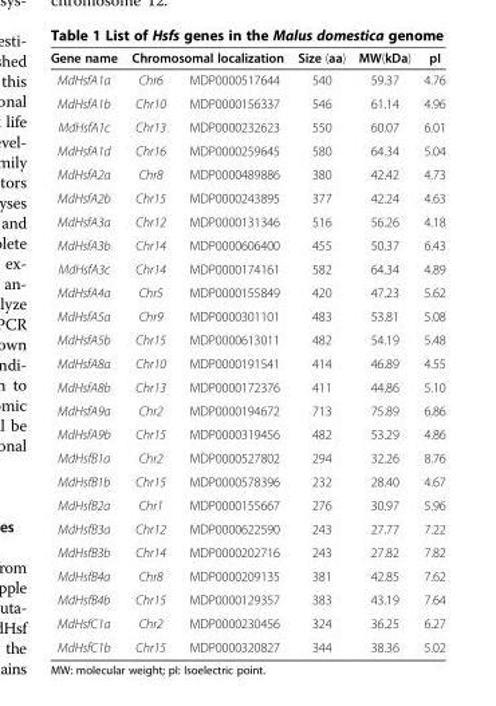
<table><thead><tr><td rowspan="2">Gene name MdHsfA1a</td><td colspan="2">Chromosomal localization</td><td rowspan="2">Size (aa) 540</td><td rowspan="2">MW(kDa) 59.37</td><td rowspan="2">pI 4.76</td></tr><tr><td>Chr6</td><td>MDP0000517644</td></tr></thead><tbody><tr><td>MdHsfA1b</td><td>Chr10</td><td>MDP0000156337</td><td>546</td><td>61.14</td><td>4.96</td></tr><tr><td>MdHsfA1c</td><td>Chr13</td><td>MDP0000232623</td><td>550</td><td>60.07</td><td>6.01</td></tr><tr><td>MdHsfA1d</td><td>Chr16</td><td>MDP0000259645</td><td>580</td><td>64.34</td><td>5.04</td></tr><tr><td>MdHsfA2a</td><td>Chr8</td><td>MDP0000489886</td><td>380</td><td>42.42</td><td>4.73</td></tr><tr><td>MdHsfA2b</td><td>Chr15</td><td>MDP0000243895</td><td>377</td><td>42.24</td><td>4.63</td></tr><tr><td>MdHsfA3a</td><td>Chr12</td><td>MDP0000131346</td><td>516</td><td>56.26</td><td>4.18</td></tr><tr><td>MdHsfA3b</td><td>Chr14</td><td>MDP0000606400</td><td>455</td><td>50.37</td><td>6.43</td></tr><tr><td>MdHsfA3c</td><td>Chr14</td><td>MDP0000174161</td><td>582</td><td>64.34</td><td>4.89</td></tr><tr><td>MdHsfA4a</td><td>Chr5</td><td>MDP0000155849</td><td>420</td><td>47.23</td><td>5.62</td></tr><tr><td>MdHsfA5a</td><td>Chr9</td><td>MDP0000301101</td><td>483</td><td>53.81</td><td>5.08</td></tr><tr><td>MdHsfA5b</td><td>Chr15</td><td>MDP0000613011</td><td>482</td><td>54.19</td><td>5.48</td></tr><tr><td>MdHsfA8a</td><td>Chr10</td><td>MDP0000191541</td><td>414</td><td>46.89</td><td>4.55</td></tr><tr><td>MdHsfA8b</td><td>Chr13</td><td>MDP0000172376</td><td>411</td><td>44.86</td><td>5.10</td></tr><tr><td>MdHsfA9a</td><td>Chr2</td><td>MDP0000194672</td><td>713</td><td>75.89</td><td>6.86</td></tr><tr><td>MdHsfA9b</td><td>Chr15</td><td>MDP0000319456</td><td>482</td><td>53.29</td><td>4.86</td></tr><tr><td>MdHsfB1a</td><td>Chr2</td><td>MDP0000527802</td><td>294</td><td>32.26</td><td>8.76</td></tr><tr><td>MdHsfB1b</td><td>Chr15</td><td>MDP0000578396</td><td>232</td><td>28.40</td><td>4.67</td></tr><tr><td>MdHsfB2a</td><td>Chr1</td><td>MDP0000155667</td><td>276</td><td>30.97</td><td>5.96</td></tr><tr><td>MdHsfB3a</td><td>Chr12</td><td>MDP0000622590</td><td>243</td><td>27.77</td><td>7.22</td></tr><tr><td>MdHsfB3b</td><td>Chr14</td><td>MDP0000202716</td><td>243</td><td>27.82</td><td>7.82</td></tr><tr><td>MdHsfB4a</td><td>Chr8</td><td>MDP0000209135</td><td>381</td><td>42.85</td><td>7.62</td></tr><tr><td>MdHsfB4b</td><td>Chr15</td><td>MDP0000129357</td><td>383</td><td>43.19</td><td>7.64</td></tr><tr><td>MdHsfC1a</td><td>Chr2</td><td>MDP0000230456</td><td>324</td><td>36.25</td><td>6.27</td></tr><tr><td>MdHsfC1b</td><td>Chr15</td><td>MDP0000320827</td><td>344</td><td>38.36</td><td>5.02</td></tr></tbody></table>